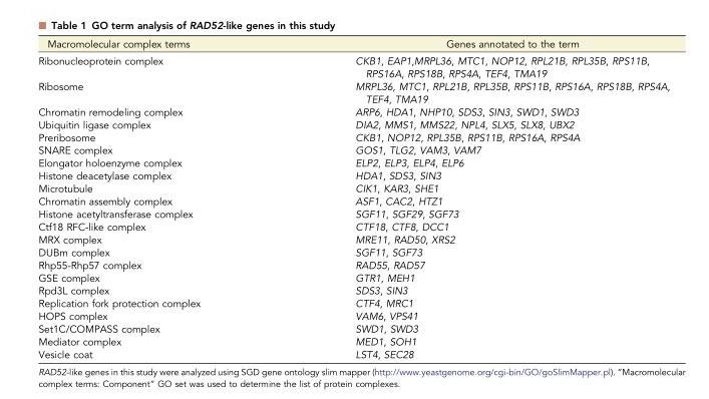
<table><thead><tr><td>Macromolecular complex terms</td><td>Genes annotated to the term</td></tr></thead><tbody><tr><td>Ribonucleoprotein complex</td><td>CKB1, EAP1,MRPL36, MTC1, NOP12, RPL21B, RPL35B, RPS11B, RPS16A, RPS18B, RPS4A, TEF4, TMA19</td></tr><tr><td>Ribosome</td><td>MRPL36, MTC1, RPL21B, RPL35B, RPS11B, RPS16A, RPS18B, RPS4A, TEF4, TMA19</td></tr><tr><td>Chromatin remodeling complex</td><td>ARP6, HDA1, NHP10, SDS3, SIN3, SWD1, SWD3</td></tr><tr><td>Ubiquitin ligase complex</td><td>DIA2, MMS1, MMS22, NPL4, SLX5, SLX8, UBX2</td></tr><tr><td>Preribosome</td><td>CKB1, NOP12, RPL35B, RPS11B, RPS16A, RPS4A</td></tr><tr><td>SNARE complex</td><td>GOS1, TLG2, VAM3, VAM7</td></tr><tr><td>Elongator holoenzyme complex</td><td>ELP2, ELP3, ELP4, ELP6</td></tr><tr><td>Histone deacetylase complex</td><td>HDA1, SDS3, SIN3</td></tr><tr><td>Microtubule</td><td>CIK1, KAR3, SHE1</td></tr><tr><td>Chromatin assembly complex</td><td>ASF1, CAC2, HTZ1</td></tr><tr><td>Histone acetyltransferase complex</td><td>SGF11, SGF29, SGF73</td></tr><tr><td>Ctf18 RFC-like complex</td><td>CTF18, CTF8, DCC1</td></tr><tr><td>MRX complex</td><td>MRE11, RAD50, XRS2</td></tr><tr><td>DUBm complex</td><td>SGF11, SGF73</td></tr><tr><td>Rhp55-Rhp57 complex</td><td>RAD55, RAD57</td></tr><tr><td>GSE complex</td><td>GTR1, MEH1</td></tr><tr><td>Rpd3L complex</td><td>SDS3, SIN3</td></tr><tr><td>Replication fork protection complex</td><td>CTF4, MRC1</td></tr><tr><td>HOPS complex</td><td>VAM6, VPS41</td></tr><tr><td>Set1C/COMPASS complex</td><td>SWD1, SWD3</td></tr><tr><td>Mediator complex</td><td>MED1, SOH1</td></tr><tr><td>Vesicle coat</td><td>LST4, SEC28</td></tr></tbody></table>